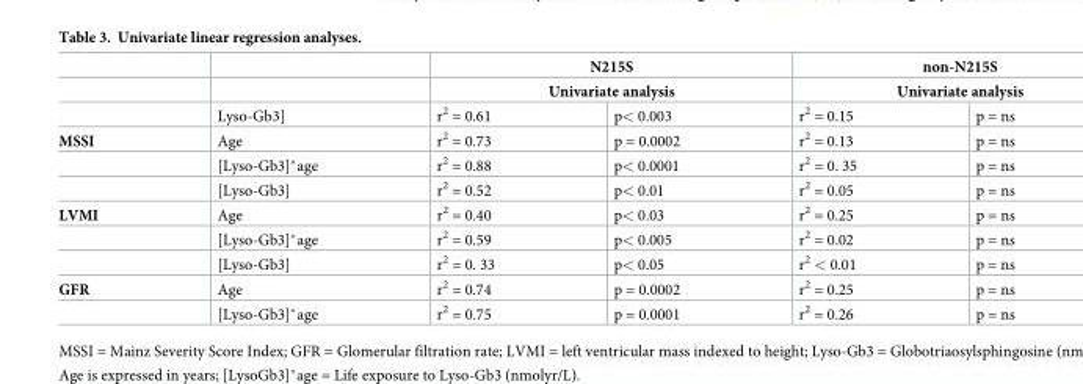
<table><thead><tr><td rowspan="3"></td><td rowspan="3">Lyso-Gb3]</td><td rowspan="2" colspan="2">N215S Univariate analysis</td><td rowspan="2" colspan="2">non-N215S Univariate analysis</td></tr><tr></tr><tr><td>r<sup>2</sup> = 0.61</td><td>p&lt; 0.003</td><td>r<sup>2</sup> = 0.15</td><td>p = ns</td></tr></thead><tbody><tr><td rowspan="3">MSSI</td><td>Age</td><td>r<sup>2</sup> = 0.73</td><td>p = 0.0002</td><td>r<sup>2</sup> = 0.13</td><td>p = ns</td></tr><tr><td>[Lyso-Gb3]*age</td><td>r<sup>2</sup> = 0.88</td><td>p&lt; 0.0001</td><td>r<sup>2</sup> = 0. 35</td><td>p = ns</td></tr><tr><td>[Lyso-Gb3]</td><td>r<sup>2</sup> = 0.52</td><td>p&lt; 0.01</td><td>r<sup>2</sup> = 0.05</td><td>p = ns</td></tr><tr><td rowspan="3">LVMI</td><td>Age</td><td>r<sup>2</sup> = 0.40</td><td>p&lt; 0.03</td><td>r<sup>2</sup> = 0.25</td><td>p = ns</td></tr><tr><td>[Lyso-Gb3]*age</td><td>r<sup>2</sup> = 0.59</td><td>p&lt; 0.005</td><td>r<sup>2</sup> = 0.02</td><td>p = ns</td></tr><tr><td>[Lyso-Gb3]</td><td>r<sup>2</sup> = 0. 33</td><td>p&lt; 0.05</td><td>r<sup>2</sup> &lt; 0.01</td><td>p = ns</td></tr><tr><td rowspan="2">GFR</td><td>Age</td><td>r<sup>2</sup> = 0.74</td><td>p = 0.0002</td><td>r<sup>2</sup> = 0.25</td><td>p = ns</td></tr><tr><td>[Lyso-Gb3]*age</td><td>r<sup>2</sup> = 0.75</td><td>p = 0.0001</td><td>r<sup>2</sup> = 0.26</td><td>p = ns</td></tr></tbody></table>